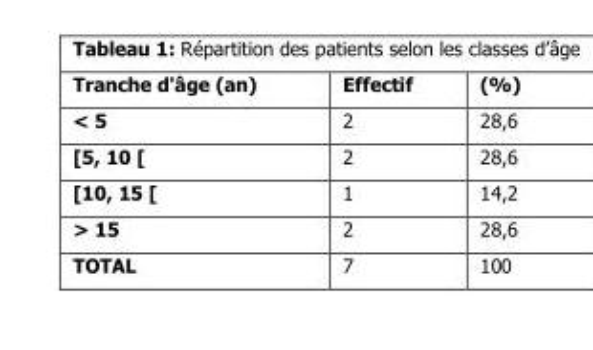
<table><thead><tr><td>Tranche d&#x27;âge (an)</td><td>Effectif</td><td>(%)</td></tr></thead><tbody><tr><td>&lt; 5</td><td>2</td><td>28,6</td></tr><tr><td>[5, 10 [</td><td>2</td><td>28,6</td></tr><tr><td>[10, 15 [</td><td>1</td><td>14,2</td></tr><tr><td>&gt; 15</td><td>2</td><td>28,6</td></tr><tr><td>TOTAL</td><td>7</td><td>100</td></tr></tbody></table>